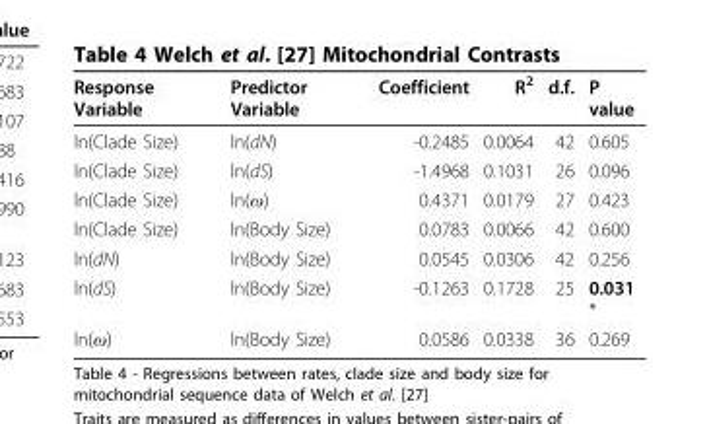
<table><thead><tr><td>Response Variable</td><td>Predictor Variable</td><td>Coefficient</td><td>R<sup>2</sup></td><td>d.f.</td><td>P value</td></tr></thead><tbody><tr><td>ln(Clade Size)</td><td>ln(dN)</td><td>-0.2485</td><td>0.0064</td><td>42</td><td>0.605</td></tr><tr><td>ln(Clade Size)</td><td>ln(dS)</td><td>-1.4968</td><td>0.1031</td><td>26</td><td>0.096</td></tr><tr><td>ln(Clade Size)</td><td>ln(ω)</td><td>0.4371</td><td>0.0179</td><td>27</td><td>0.423</td></tr><tr><td>ln(Clade Size)</td><td>ln(Body Size)</td><td>0.0783</td><td>0.0066</td><td>42</td><td>0.600</td></tr><tr><td>ln(dN)</td><td>ln(Body Size)</td><td>0.0545</td><td>0.0306</td><td>42</td><td>0.256</td></tr><tr><td>ln(dS)</td><td>ln(Body Size)</td><td>-0.1263</td><td>0.1728</td><td>25</td><td>0.031 *</td></tr><tr><td>ln(ω)</td><td>ln(Body Size)</td><td>0.0586</td><td>0.0338</td><td>36</td><td>0.269</td></tr></tbody></table>